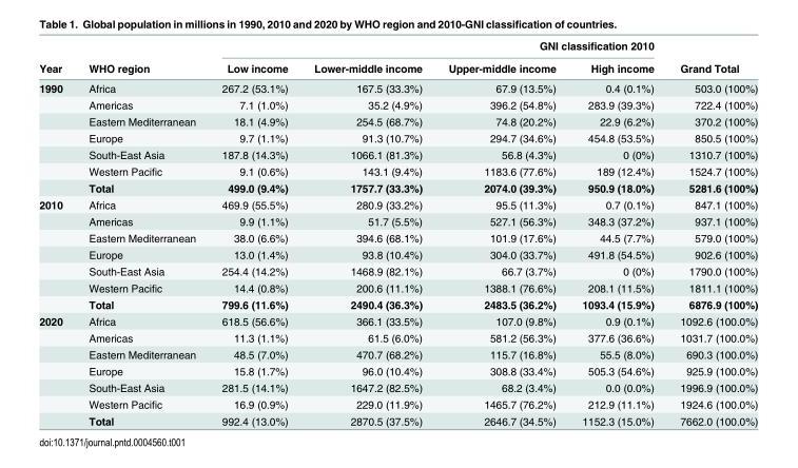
<table><thead><tr><td rowspan="2">Year</td><td rowspan="2">WHO region</td><td colspan="4">GNI classification 2010</td><td rowspan="2">Grand Total</td></tr><tr><td>Low income</td><td>Lower-middle income</td><td>Upper-middle income</td><td>High income</td></tr></thead><tbody><tr><td rowspan="7">1990</td><td>Africa</td><td>267.2 (53.1%)</td><td>167.5 (33.3%)</td><td>67.9 (13.5%)</td><td>0.4 (0.1%)</td><td>503.0 (100%)</td></tr><tr><td>Americas</td><td>7.1 (1.0%)</td><td>35.2 (4.9%)</td><td>396.2 (54.8%)</td><td>283.9 (39.3%)</td><td>722.4 (100%)</td></tr><tr><td>Eastern Mediterranean</td><td>18.1 (4.9%)</td><td>254.5 (68.7%)</td><td>74.8 (20.2%)</td><td>22.9 (6.2%)</td><td>370.2 (100%)</td></tr><tr><td>Europe</td><td>9.7 (1.1%)</td><td>91.3 (10.7%)</td><td>294.7 (34.6%)</td><td>454.8 (53.5%)</td><td>850.5 (100%)</td></tr><tr><td>South-East Asia</td><td>187.8 (14.3%)</td><td>1066.1 (81.3%)</td><td>56.8 (4.3%)</td><td>0 (0%)</td><td>1310.7 (100%)</td></tr><tr><td>Western Pacific</td><td>9.1 (0.6%)</td><td>143.1 (9.4%)</td><td>1183.6 (77.6%)</td><td>189 (12.4%)</td><td>1524.7 (100%)</td></tr><tr><td>Total</td><td>499.0 (9.4%)</td><td>1757.7 (33.3%)</td><td>2074.0 (39.3%)</td><td>950.9 (18.0%)</td><td>5281.6 (100%)</td></tr><tr><td rowspan="7">2010</td><td>Africa</td><td>469.9 (55.5%)</td><td>280.9 (33.2%)</td><td>95.5 (11.3%)</td><td>0.7 (0.1%)</td><td>847.1 (100%)</td></tr><tr><td>Americas</td><td>9.9 (1.1%)</td><td>51.7 (5.5%)</td><td>527.1 (56.3%)</td><td>348.3 (37.2%)</td><td>937.1 (100%)</td></tr><tr><td>Eastern Mediterranean</td><td>38.0 (6.6%)</td><td>394.6 (68.1%)</td><td>101.9 (17.6%)</td><td>44.5 (7.7%)</td><td>579.0 (100%)</td></tr><tr><td>Europe</td><td>13.0 (1.4%)</td><td>93.8 (10.4%)</td><td>304.0 (33.7%)</td><td>491.8 (54.5%)</td><td>902.6 (100%)</td></tr><tr><td>South-East Asia</td><td>254.4 (14.2%)</td><td>1468.9 (82.1%)</td><td>66.7 (3.7%)</td><td>0 (0%)</td><td>1790.0 (100%)</td></tr><tr><td>Western Pacific</td><td>14.4 (0.8%)</td><td>200.6 (11.1%)</td><td>1388.1 (76.6%)</td><td>208.1 (11.5%)</td><td>1811.1 (100%)</td></tr><tr><td>Total</td><td>799.6 (11.6%)</td><td>2490.4 (36.3%)</td><td>2483.5 (36.2%)</td><td>1093.4 (15.9%)</td><td>6876.9 (100%)</td></tr><tr><td rowspan="7">2020</td><td>Africa</td><td>618.5 (56.6%)</td><td>366.1 (33.5%)</td><td>107.0 (9.8%)</td><td>0.9 (0.1%)</td><td>1092.6 (100.0%)</td></tr><tr><td>Americas</td><td>11.3 (1.1%)</td><td>61.5 (6.0%)</td><td>581.2 (56.3%)</td><td>377.6 (36.6%)</td><td>1031.7 (100.0%)</td></tr><tr><td>Eastern Mediterranean</td><td>48.5 (7.0%)</td><td>470.7 (68.2%)</td><td>115.7 (16.8%)</td><td>55.5 (8.0%)</td><td>690.3 (100.0%)</td></tr><tr><td>Europe</td><td>15.8 (1.7%)</td><td>96.0 (10.4%)</td><td>308.8 (33.4%)</td><td>505.3 (54.6%)</td><td>925.9 (100.0%)</td></tr><tr><td>South-East Asia</td><td>281.5 (14.1%)</td><td>1647.2 (82.5%)</td><td>68.2 (3.4%)</td><td>0.0 (0.0%)</td><td>1996.9 (100.0%)</td></tr><tr><td>Western Pacific</td><td>16.9 (0.9%)</td><td>229.0 (11.9%)</td><td>1465.7 (76.2%)</td><td>212.9 (11.1%)</td><td>1924.6 (100.0%)</td></tr><tr><td>Total</td><td>992.4 (13.0%)</td><td>2870.5 (37.5%)</td><td>2646.7 (34.5%)</td><td>1152.3 (15.0%)</td><td>7662.0 (100.0%)</td></tr></tbody></table>